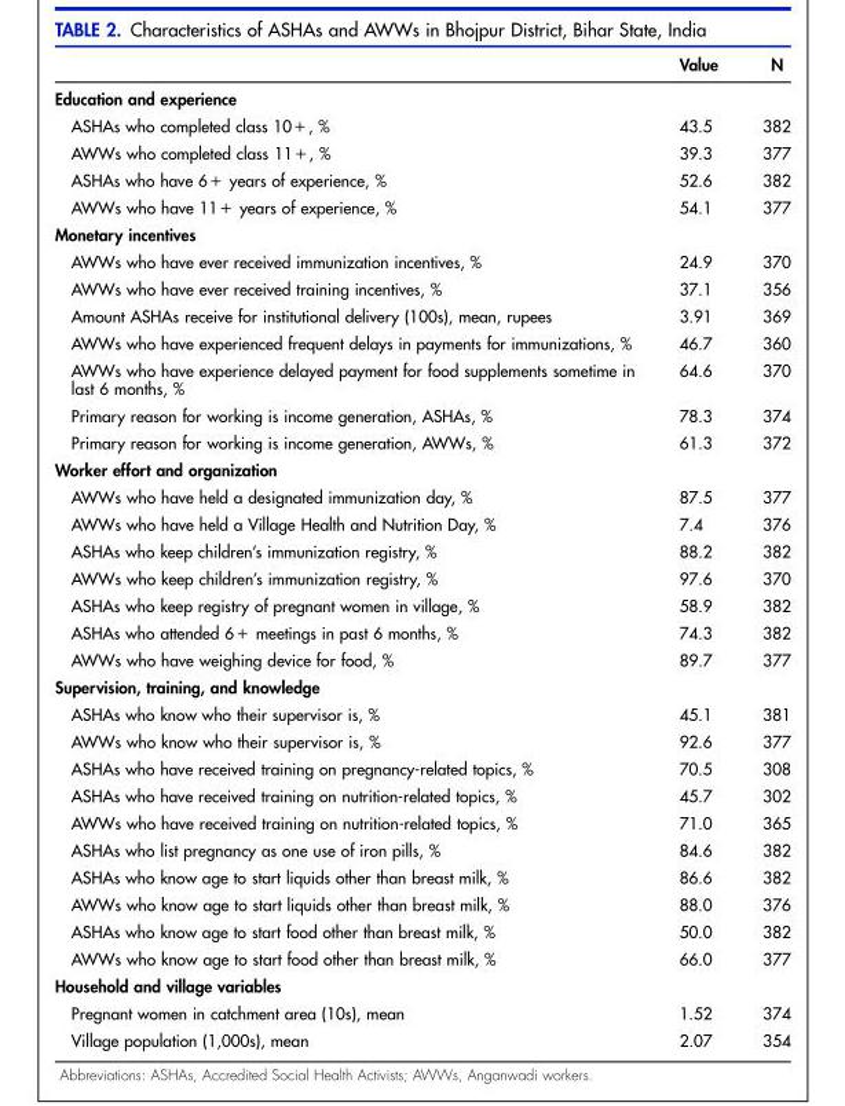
<table><thead><tr><td></td><td>Value</td><td>N</td></tr></thead><tbody><tr><td colspan="3">Education and experience</td></tr><tr><td>ASHAs who completed class 10+, %</td><td>43.5</td><td>382</td></tr><tr><td>AWWs who completed class 11+, %</td><td>39.3</td><td>377</td></tr><tr><td>ASHAs who have 6+ years of experience, %</td><td>52.6</td><td>382</td></tr><tr><td>AWWs who have 11+ years of experience, %</td><td>54.1</td><td>377</td></tr><tr><td colspan="3">Monetary incentives</td></tr><tr><td>AWWs who have ever received immunization incentives, %</td><td>24.9</td><td>370</td></tr><tr><td>AWWs who have ever received training incentives, %</td><td>37.1</td><td>356</td></tr><tr><td>Amount ASHAs receive for institutional delivery (100s), mean, rupees</td><td>3.91</td><td>369</td></tr><tr><td>AWWs who have experienced frequent delays in payments for immunizations, %</td><td>46.7</td><td>360</td></tr><tr><td>AWWs who have experience delayed payment for food supplements sometime in last 6 months, %</td><td>64.6</td><td>370</td></tr><tr><td>Primary reason for working is income generation, ASHAs, %</td><td>78.3</td><td>374</td></tr><tr><td>Primary reason for working is income generation, AWWs, %</td><td>61.3</td><td>372</td></tr><tr><td colspan="3">Worker effort and organization</td></tr><tr><td>AWWs who have held a designated immunization day, %</td><td>87.5</td><td>377</td></tr><tr><td>AWWs who have held a Village Health and Nutrition Day, %</td><td>7.4</td><td>376</td></tr><tr><td>ASHAs who keep children’s immunization registry, %</td><td>88.2</td><td>382</td></tr><tr><td>AWWs who keep children’s immunization registry, %</td><td>97.6</td><td>370</td></tr><tr><td>ASHAs who keep registry of pregnant women in village, %</td><td>58.9</td><td>382</td></tr><tr><td>ASHAs who attended 6+ meetings in past 6 months, %</td><td>74.3</td><td>382</td></tr><tr><td>AWWs who have weighing device for food, %</td><td>89.7</td><td>377</td></tr><tr><td colspan="3">Supervision, training, and knowledge</td></tr><tr><td>ASHAs who know who their supervisor is, %</td><td>45.1</td><td>381</td></tr><tr><td>AWWs who know who their supervisor is, %</td><td>92.6</td><td>377</td></tr><tr><td>ASHAs who have received training on pregnancy-related topics, %</td><td>70.5</td><td>308</td></tr><tr><td>ASHAs who have received training on nutrition-related topics, %</td><td>45.7</td><td>302</td></tr><tr><td>AWWs who have received training on nutrition-related topics, %</td><td>71.0</td><td>365</td></tr><tr><td>ASHAs who list pregnancy as one use of iron pills, %</td><td>84.6</td><td>382</td></tr><tr><td>ASHAs who know age to start liquids other than breast milk, %</td><td>86.6</td><td>382</td></tr><tr><td>AWWs who know age to start liquids other than breast milk, %</td><td>88.0</td><td>376</td></tr><tr><td>ASHAs who know age to start food other than breast milk, %</td><td>50.0</td><td>382</td></tr><tr><td>AWWs who know age to start food other than breast milk, %</td><td>66.0</td><td>377</td></tr><tr><td colspan="3">Household and village variables</td></tr><tr><td>Pregnant women in catchment area (10s), mean</td><td>1.52</td><td>374</td></tr><tr><td>Village population (1,000s), mean</td><td>2.07</td><td>354</td></tr></tbody></table>